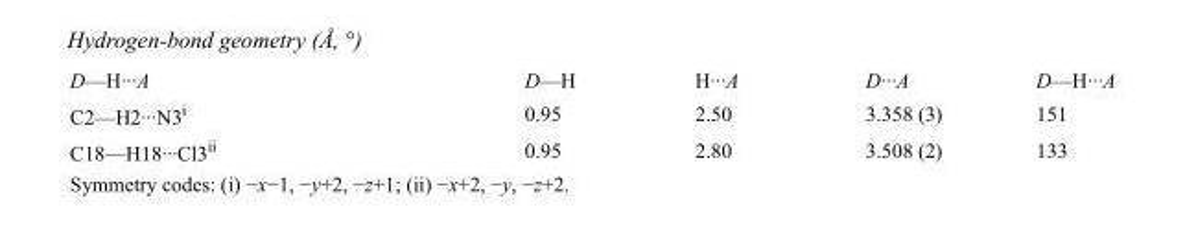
<table><tbody><tr><td>D—H···A</td><td>D—H</td><td>H···A</td><td>D···A</td><td>D—H···A</td></tr><tr><td>C2—H2···N3<sup>i</sup></td><td>0.95</td><td>2.50</td><td>3.358 (3)</td><td>151</td></tr><tr><td>C18—H18···Cl3<sup>ii</sup></td><td>0.95</td><td>2.80</td><td>3.508 (2)</td><td>133</td></tr></tbody></table>